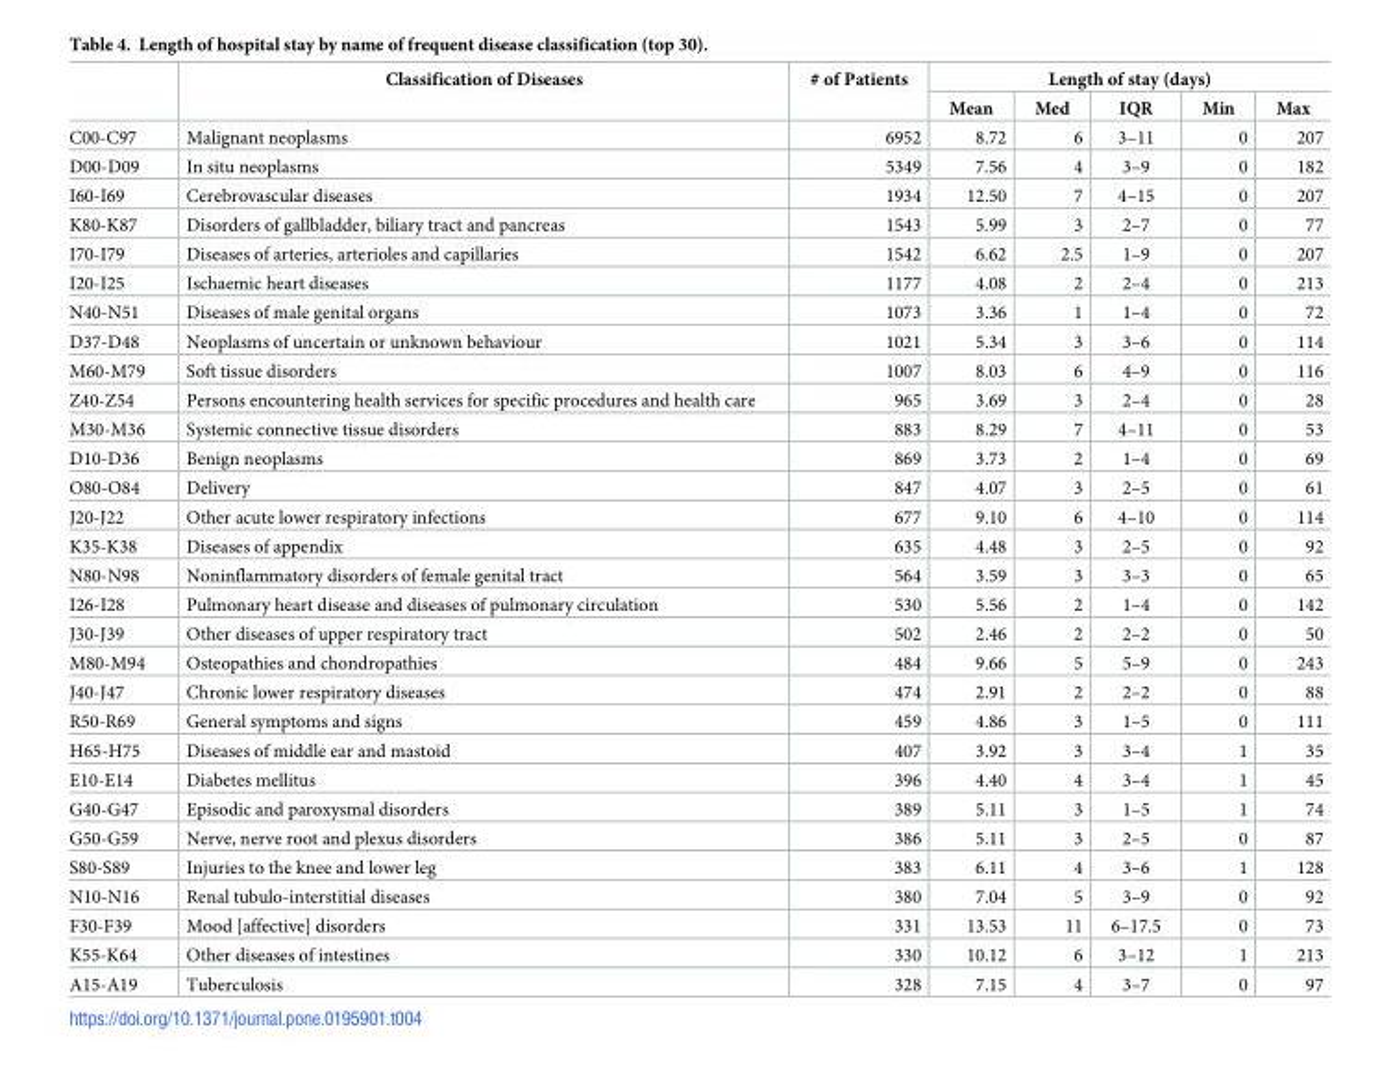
<table><thead><tr><td rowspan="2"></td><td rowspan="2">Classification of Diseases</td><td rowspan="2"># of Patients</td><td colspan="5">Length of stay (days)</td></tr><tr><td>Mean</td><td>Med</td><td>IQR</td><td>Min</td><td>Max</td></tr></thead><tbody><tr><td>C00-C97</td><td>Malignant neoplasms</td><td>6952</td><td>8.72</td><td>6</td><td>3–11</td><td>0</td><td>207</td></tr><tr><td>D00-D09</td><td>In situ neoplasms</td><td>5349</td><td>7.56</td><td>4</td><td>3–9</td><td>0</td><td>182</td></tr><tr><td>I60-I69</td><td>Cerebrovascular diseases</td><td>1934</td><td>12.50</td><td>7</td><td>4–15</td><td>0</td><td>207</td></tr><tr><td>K80-K87</td><td>Disorders of gallbladder, biliary tract and pancreas</td><td>1543</td><td>5.99</td><td>3</td><td>2–7</td><td>0</td><td>77</td></tr><tr><td>I70-I79</td><td>Diseases of arteries, arterioles and capillaries</td><td>1542</td><td>6.62</td><td>2.5</td><td>1–9</td><td>0</td><td>207</td></tr><tr><td>I20-I25</td><td>Ischaemic heart diseases</td><td>1177</td><td>4.08</td><td>2</td><td>2–4</td><td>0</td><td>213</td></tr><tr><td>N40-N51</td><td>Diseases of male genital organs</td><td>1073</td><td>3.36</td><td>1</td><td>1–4</td><td>0</td><td>72</td></tr><tr><td>D37-D48</td><td>Neoplasms of uncertain or unknown behaviour</td><td>1021</td><td>5.34</td><td>3</td><td>3–6</td><td>0</td><td>114</td></tr><tr><td>M60-M79</td><td>Soft tissue disorders</td><td>1007</td><td>8.03</td><td>6</td><td>4–9</td><td>0</td><td>116</td></tr><tr><td>Z40-Z54</td><td>Persons encountering health services for specific procedures and health care</td><td>965</td><td>3.69</td><td>3</td><td>2–4</td><td>0</td><td>28</td></tr><tr><td>M30-M36</td><td>Systemic connective tissue disorders</td><td>883</td><td>8.29</td><td>7</td><td>4–11</td><td>0</td><td>53</td></tr><tr><td>D10-D36</td><td>Benign neoplasms</td><td>869</td><td>3.73</td><td>2</td><td>1–4</td><td>0</td><td>69</td></tr><tr><td>O80-O84</td><td>Delivery</td><td>847</td><td>4.07</td><td>3</td><td>2–5</td><td>0</td><td>61</td></tr><tr><td>J20-J22</td><td>Other acute lower respiratory infections</td><td>677</td><td>9.10</td><td>6</td><td>4–10</td><td>0</td><td>114</td></tr><tr><td>K35-K38</td><td>Diseases of appendix</td><td>635</td><td>4.48</td><td>3</td><td>2–5</td><td>0</td><td>92</td></tr><tr><td>N80-N98</td><td>Noninflammatory disorders of female genital tract</td><td>564</td><td>3.59</td><td>3</td><td>3–3</td><td>0</td><td>65</td></tr><tr><td>I26-I28</td><td>Pulmonary heart disease and diseases of pulmonary circulation</td><td>530</td><td>5.56</td><td>2</td><td>1–4</td><td>0</td><td>142</td></tr><tr><td>J30-J39</td><td>Other diseases of upper respiratory tract</td><td>502</td><td>2.46</td><td>2</td><td>2–2</td><td>0</td><td>50</td></tr><tr><td>M80-M94</td><td>Osteopathies and chondropathies</td><td>484</td><td>9.66</td><td>5</td><td>5–9</td><td>0</td><td>243</td></tr><tr><td>J40-J47</td><td>Chronic lower respiratory diseases</td><td>474</td><td>2.91</td><td>2</td><td>2–2</td><td>0</td><td>88</td></tr><tr><td>R50-R69</td><td>General symptoms and signs</td><td>459</td><td>4.86</td><td>3</td><td>1–5</td><td>0</td><td>111</td></tr><tr><td>H65-H75</td><td>Diseases of middle ear and mastoid</td><td>407</td><td>3.92</td><td>3</td><td>3–4</td><td>1</td><td>35</td></tr><tr><td>E10-E14</td><td>Diabetes mellitus</td><td>396</td><td>4.40</td><td>4</td><td>3–4</td><td>1</td><td>45</td></tr><tr><td>G40-G47</td><td>Episodic and paroxysmal disorders</td><td>389</td><td>5.11</td><td>3</td><td>1–5</td><td>1</td><td>74</td></tr><tr><td>G50-G59</td><td>Nerve, nerve root and plexus disorders</td><td>386</td><td>5.11</td><td>3</td><td>2–5</td><td>0</td><td>87</td></tr><tr><td>S80-S89</td><td>Injuries to the knee and lower leg</td><td>383</td><td>6.11</td><td>4</td><td>3–6</td><td>1</td><td>128</td></tr><tr><td>N10-N16</td><td>Renal tubulo-interstitial diseases</td><td>380</td><td>7.04</td><td>5</td><td>3–9</td><td>0</td><td>92</td></tr><tr><td>F30-F39</td><td>Mood [affective] disorders</td><td>331</td><td>13.53</td><td>11</td><td>6–17.5</td><td>0</td><td>73</td></tr><tr><td>K55-K64</td><td>Other diseases of intestines</td><td>330</td><td>10.12</td><td>6</td><td>3–12</td><td>1</td><td>213</td></tr><tr><td>A15-A19</td><td>Tuberculosis</td><td>328</td><td>7.15</td><td>4</td><td>3–7</td><td>0</td><td>97</td></tr></tbody></table>